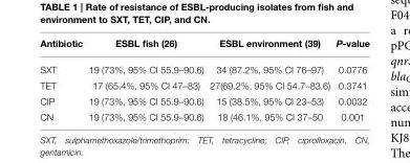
<table><thead><tr><td>Antibiotic</td><td>ESBL fish (26)</td><td>ESBL environment (39)</td><td>P-value</td></tr></thead><tbody><tr><td>SXT</td><td>19 (73%, 95% CI 55.9–90.6)</td><td>34 (87.2%, 95% CI 76–97)</td><td>0.0776</td></tr><tr><td>TET</td><td>17 (65.4%, 95% CI 47–83)</td><td>27(69.2%, 95% CI 54.7–83.6)</td><td>0.3741</td></tr><tr><td>CIP</td><td>19 (73%, 95% CI 55.9–90.6)</td><td>15 (38.5%, 95% CI 23–53)</td><td>0.0032</td></tr><tr><td>CN</td><td>19 (73%, 95% CI 55.9–90.6)</td><td>18 (46.1%, 95% CI 37–50</td><td>0.001</td></tr></tbody></table>